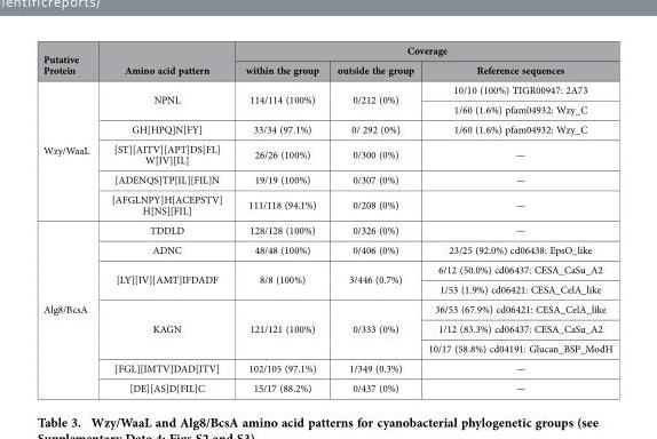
<table><thead><tr><td rowspan="2">Putative Protein</td><td rowspan="2">Amino acid pattern</td><td colspan="3">Coverage</td></tr><tr><td>within the group</td><td>outside the group</td><td>Reference sequences</td></tr></thead><tbody><tr><td rowspan="6">Wzy/WaaL</td><td rowspan="2">NPNL</td><td rowspan="2">114/114 (100%)</td><td rowspan="2">0/212 (0%)</td><td>10/10 (100%) TIGR00947: 2A73</td></tr><tr><td>1/60 (1.6%) pfam04932: Wzy_C</td></tr><tr><td>GH[HPQ]N[FY]</td><td>33/34 (97.1%)</td><td>0/ 292 (0%)</td><td>1/60 (1.6%) pfam04932: Wzy_C</td></tr><tr><td>[ST][AITV][APT]DS[FL] W[IV][IL]</td><td>26/26 (100%)</td><td>0/300 (0%)</td><td>—</td></tr><tr><td>[ADENQS]TP[IL][FIL]N</td><td>19/19 (100%)</td><td>0/307 (0%)</td><td>—</td></tr><tr><td>[AFGLNPY]H[ACEPSTV] H[NS][FIL]</td><td>111/118 (94.1%)</td><td>0/208 (0%)</td><td>—</td></tr><tr><td rowspan="9">Alg8/BcsA</td><td>TDDLD</td><td>128/128 (100%)</td><td>0/326 (0%)</td><td>—</td></tr><tr><td>ADNC</td><td>48/48 (100%)</td><td>0/406 (0%)</td><td>23/25 (92.0%) cd06438: EpsO_like</td></tr><tr><td rowspan="2">[LY][IV][AMT]IFDADF</td><td rowspan="2">8/8 (100%)</td><td rowspan="2">3/446 (0.7%)</td><td>6/12 (50.0%) cd06437: CESA_CaSu_A2</td></tr><tr><td>1/53 (1.9%) cd06421: CESA_CelA_like</td></tr><tr><td rowspan="3">KAGN</td><td rowspan="3">121/121 (100%)</td><td rowspan="3">0/333 (0%)</td><td>36/53 (67.9%) cd06421: CESA_CelA_like</td></tr><tr><td>1/12 (83.3%) cd06437: CESA_CaSu_A2</td></tr><tr><td>10/17 (58.8%) cd04191: Glucan_BSP_ModH</td></tr><tr><td>[FGL][IMTV]DAD[ITV]</td><td>102/105 (97.1%)</td><td>1/349 (0.3%)</td><td>—</td></tr><tr><td>[DE][AS]D[FIL]C</td><td>15/17 (88.2%)</td><td>0/437 (0%)</td><td>—</td></tr></tbody></table>